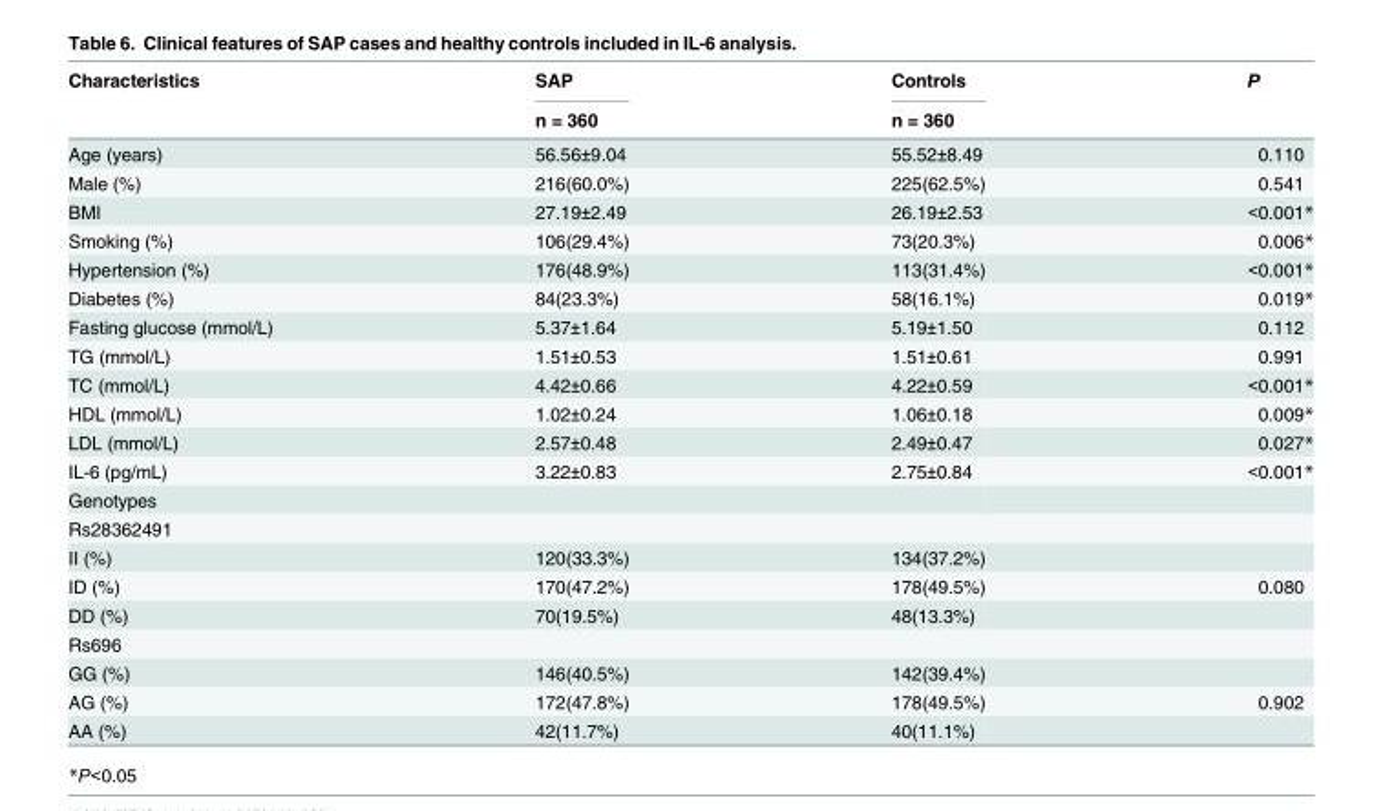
<table><thead><tr><td rowspan="2">Characteristics</td><td rowspan="2">SAP n = 360</td><td rowspan="2">Controls n = 360</td><td rowspan="2">P</td></tr><tr></tr></thead><tbody><tr><td>Age (years)</td><td>56.56±9.04</td><td>55.52±8.49</td><td>0.110</td></tr><tr><td>Male (%)</td><td>216(60.0%)</td><td>225(62.5%)</td><td>0.541</td></tr><tr><td>BMI</td><td>27.19±2.49</td><td>26.19±2.53</td><td>&lt;0.001*</td></tr><tr><td>Smoking (%)</td><td>106(29.4%)</td><td>73(20.3%)</td><td>0.006*</td></tr><tr><td>Hypertension (%)</td><td>176(48.9%)</td><td>113(31.4%)</td><td>&lt;0.001*</td></tr><tr><td>Diabetes (%)</td><td>84(23.3%)</td><td>58(16.1%)</td><td>0.019*</td></tr><tr><td>Fasting glucose (mmol/L)</td><td>5.37±1.64</td><td>5.19±1.50</td><td>0.112</td></tr><tr><td>TG (mmol/L)</td><td>1.51±0.53</td><td>1.51±0.61</td><td>0.991</td></tr><tr><td>TC (mmol/L)</td><td>4.42±0.66</td><td>4.22±0.59</td><td>&lt;0.001*</td></tr><tr><td>HDL (mmol/L)</td><td>1.02±0.24</td><td>1.06±0.18</td><td>0.009*</td></tr><tr><td>LDL (mmol/L)</td><td>2.57±0.48</td><td>2.49±0.47</td><td>0.027*</td></tr><tr><td>IL-6 (pg/mL)</td><td>3.22±0.83</td><td>2.75±0.84</td><td>&lt;0.001*</td></tr><tr><td colspan="4">Genotypes</td></tr><tr><td colspan="4">Rs28362491</td></tr><tr><td>II (%)</td><td>120(33.3%)</td><td>134(37.2%)</td><td></td></tr><tr><td>ID (%)</td><td>170(47.2%)</td><td>178(49.5%)</td><td>0.080</td></tr><tr><td>DD (%)</td><td>70(19.5%)</td><td>48(13.3%)</td><td></td></tr><tr><td colspan="4">Rs696</td></tr><tr><td>GG (%)</td><td>146(40.5%)</td><td>142(39.4%)</td><td></td></tr><tr><td>AG (%)</td><td>172(47.8%)</td><td>178(49.5%)</td><td>0.902</td></tr><tr><td>AA (%)</td><td>42(11.7%)</td><td>40(11.1%)</td><td></td></tr></tbody></table>